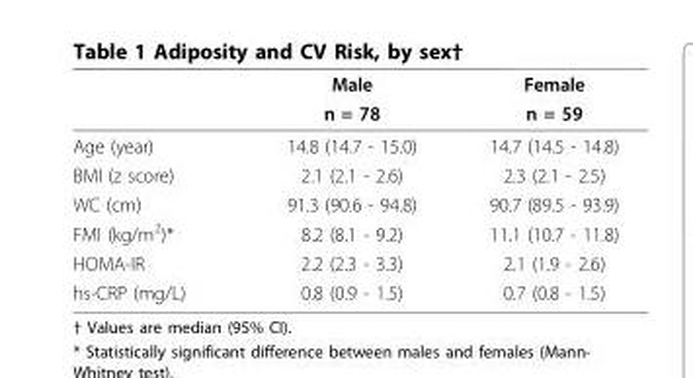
<table><thead><tr><td rowspan="2"></td><td rowspan="2">Male n = 78</td><td rowspan="2">Female n = 59</td></tr><tr></tr></thead><tbody><tr><td>Age (year)</td><td>14.8 (14.7 - 15.0)</td><td>14.7 (14.5 - 14.8)</td></tr><tr><td>BMI (z score)</td><td>2.1 (2.1 - 2.6)</td><td>2.3 (2.1 - 2.5)</td></tr><tr><td>WC (cm)</td><td>91.3 (90.6 - 94.8)</td><td>90.7 (89.5 - 93.9)</td></tr><tr><td>FMI (kg/m<sup>2</sup>)*</td><td>8.2 (8.1 - 9.2)</td><td>11.1 (10.7 - 11.8)</td></tr><tr><td>HOMA-IR</td><td>2.2 (2.3 - 3.3)</td><td>2.1 (1.9 - 2.6)</td></tr><tr><td>hs-CRP (mg/L)</td><td>0.8 (0.9 - 1.5)</td><td>0.7 (0.8 - 1.5)</td></tr></tbody></table>